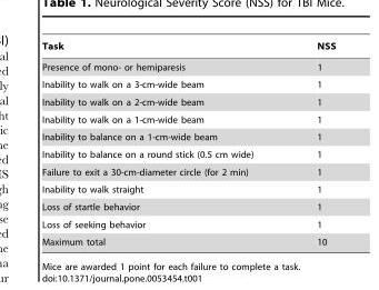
<table><thead><tr><td>Task</td><td>NSS</td></tr></thead><tbody><tr><td>Presence of mono- or hemiparesis</td><td>1</td></tr><tr><td>Inability to walk on a 3-cm-wide beam</td><td>1</td></tr><tr><td>Inability to walk on a 2-cm-wide beam</td><td>1</td></tr><tr><td>Inability to walk on a 1-cm-wide beam</td><td>1</td></tr><tr><td>Inability to balance on a 1-cm-wide beam</td><td>1</td></tr><tr><td>Inability to balance on a round stick (0.5 cm wide)</td><td>1</td></tr><tr><td>Failure to exit a 30-cm-diameter circle (for 2 min)</td><td>1</td></tr><tr><td>Inability to walk straight</td><td>1</td></tr><tr><td>Loss of startle behavior</td><td>1</td></tr><tr><td>Loss of seeking behavior</td><td>1</td></tr><tr><td>Maximum total</td><td>10</td></tr></tbody></table>